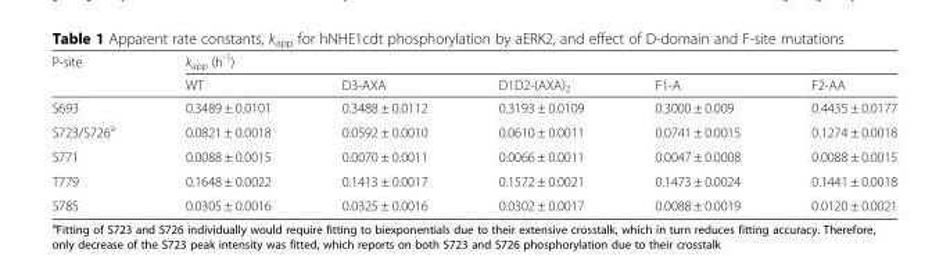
<table><thead><tr><td rowspan="2">P-site</td><td colspan="5">k<sub>app</sub> (h<sup>-1</sup>)</td></tr><tr><td>WT</td><td>D3-AXA</td><td>D1D2-(AXA)<sub>2</sub></td><td>F1-A</td><td>F2-AA</td></tr></thead><tbody><tr><td>S693</td><td>0.3489 ± 0.0101</td><td>0.3488 ± 0.0112</td><td>0.3193 ± 0.0109</td><td>0.3000 ± 0.009</td><td>0.4435 ± 0.0177</td></tr><tr><td>S723/S726<sup>a</sup></td><td>0.0821 ± 0.0018</td><td>0.0592 ± 0.0010</td><td>0.0610 ± 0.0011</td><td>0.0741 ± 0.0015</td><td>0.1274 ± 0.0018</td></tr><tr><td>S771</td><td>0.0088 ± 0.0015</td><td>0.0070 ± 0.0011</td><td>0.0066 ± 0.0011</td><td>0.0047 ± 0.0008</td><td>0.0088 ± 0.0015</td></tr><tr><td>T779</td><td>0.1648 ± 0.0022</td><td>0.1413 ± 0.0017</td><td>0.1572 ± 0.0021</td><td>0.1473 ± 0.0024</td><td>0.1441 ± 0.0018</td></tr><tr><td>S785</td><td>0.0305 ± 0.0016</td><td>0.0325 ± 0.0016</td><td>0.0302 ± 0.0017</td><td>0.0088 ± 0.0019</td><td>0.0120 ± 0.0021</td></tr></tbody></table>